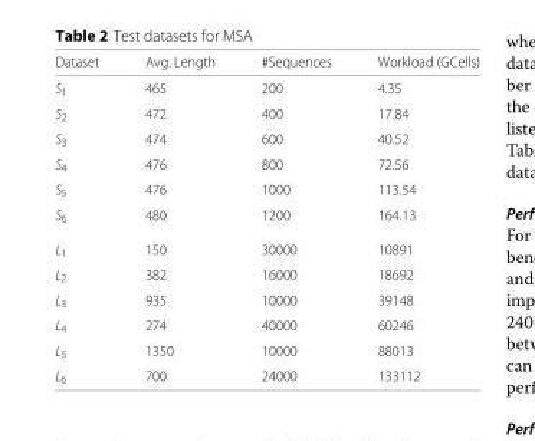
<table><thead><tr><td>Dataset</td><td>Avg. Length</td><td>#Sequences</td><td>Workload (GCells)</td></tr></thead><tbody><tr><td>S<sub>1</sub></td><td>465</td><td>200</td><td>4.35</td></tr><tr><td>S<sub>2</sub></td><td>472</td><td>400</td><td>17.84</td></tr><tr><td>S<sub>3</sub></td><td>474</td><td>600</td><td>40.52</td></tr><tr><td>S<sub>4</sub></td><td>476</td><td>800</td><td>72.56</td></tr><tr><td>S<sub>5</sub></td><td>476</td><td>1000</td><td>113.54</td></tr><tr><td>S<sub>6</sub></td><td>480</td><td>1200</td><td>164.13</td></tr><tr><td>L<sub>1</sub></td><td>150</td><td>30000</td><td>10891</td></tr><tr><td>L<sub>2</sub></td><td>382</td><td>16000</td><td>18692</td></tr><tr><td>L<sub>3</sub></td><td>935</td><td>10000</td><td>39148</td></tr><tr><td>L<sub>4</sub></td><td>274</td><td>40000</td><td>60246</td></tr><tr><td>L<sub>5</sub></td><td>1350</td><td>10000</td><td>88013</td></tr><tr><td>L<sub>6</sub></td><td>700</td><td>24000</td><td>133112</td></tr></tbody></table>